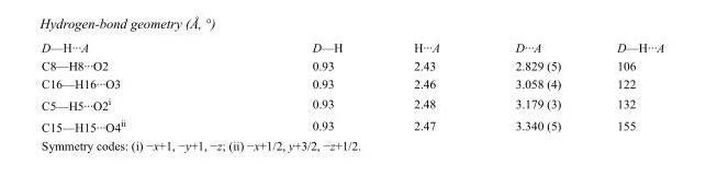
<table><tbody><tr><td>D—H···A</td><td>D—H</td><td>H···A</td><td>D···A</td><td>D—H···A</td></tr><tr><td>C8—H8···O2</td><td>0.93</td><td>2.43</td><td>2.829 (5)</td><td>106</td></tr><tr><td>C16—H16···O3</td><td>0.93</td><td>2.46</td><td>3.058 (4)</td><td>122</td></tr><tr><td>C5—H5···O2<sup>i</sup></td><td>0.93</td><td>2.48</td><td>3.179 (3)</td><td>132</td></tr><tr><td>C15—H15···O4<sup>ii</sup></td><td>0.93</td><td>2.47</td><td>3.340 (5)</td><td>155</td></tr></tbody></table>